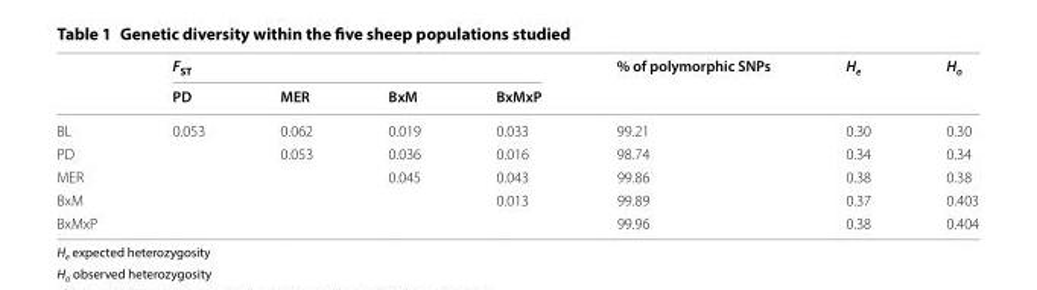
<table><thead><tr><td rowspan="2"></td><td colspan="4">F<sub>ST</sub></td><td rowspan="2">% of polymorphic SNPs</td><td rowspan="2">H<sub>e</sub></td><td rowspan="2">H<sub>o</sub></td></tr><tr><td>PD</td><td>MER</td><td>BxM</td><td>BxMxP</td></tr></thead><tbody><tr><td>BL</td><td>0.053</td><td>0.062</td><td>0.019</td><td>0.033</td><td>99.21</td><td>0.30</td><td>0.30</td></tr><tr><td>PD</td><td></td><td>0.053</td><td>0.036</td><td>0.016</td><td>98.74</td><td>0.34</td><td>0.34</td></tr><tr><td>MER</td><td></td><td></td><td>0.045</td><td>0.043</td><td>99.86</td><td>0.38</td><td>0.38</td></tr><tr><td>BxM</td><td></td><td></td><td></td><td>0.013</td><td>99.89</td><td>0.37</td><td>0.403</td></tr><tr><td>BxMxP</td><td></td><td></td><td></td><td></td><td>99.96</td><td>0.38</td><td>0.404</td></tr></tbody></table>